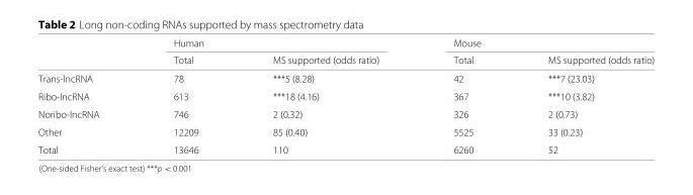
<table><thead><tr><td rowspan="2"></td><td colspan="2">Human</td><td colspan="2">Mouse</td></tr><tr><td>Total</td><td>MS supported (odds ratio)</td><td>Total</td><td>MS supported (odds ratio)</td></tr></thead><tbody><tr><td>Trans-lncRNA</td><td>78</td><td>***5 (8.28)</td><td>42</td><td>***7 (23.03)</td></tr><tr><td>Ribo-lncRNA</td><td>613</td><td>***18 (4.16)</td><td>367</td><td>***10 (3.82)</td></tr><tr><td>Noribo-lncRNA</td><td>746</td><td>2 (0.32)</td><td>326</td><td>2 (0.73)</td></tr><tr><td>Other</td><td>12209</td><td>85 (0.40)</td><td>5525</td><td>33 (0.23)</td></tr><tr><td>Total</td><td>13646</td><td>110</td><td>6260</td><td>52</td></tr></tbody></table>